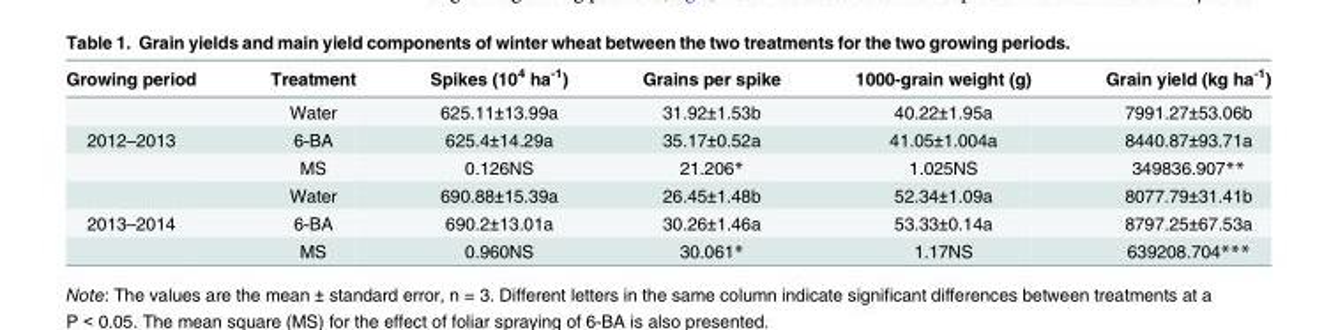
<table><thead><tr><td>Growing period</td><td>Treatment</td><td>Spikes (10<sup>4</sup> ha<sup>-1</sup>)</td><td>Grains per spike</td><td>1000-grain weight (g)</td><td>Grain yield (kg ha<sup>-1</sup>)</td></tr></thead><tbody><tr><td></td><td>Water</td><td>625.11±13.99a</td><td>31.92±1.53b</td><td>40.22±1.95a</td><td>7991.27±53.06b</td></tr><tr><td rowspan="3">2012–2013</td><td>6-BA</td><td>625.4±14.29a</td><td>35.17±0.52a</td><td>41.05±1.004a</td><td>8440.87±93.71a</td></tr><tr><td>MS</td><td>0.126NS</td><td>21.206*</td><td>1.025NS</td><td>349836.907**</td></tr><tr><td>Water</td><td>690.88±15.39a</td><td>26.45±1.48b</td><td>52.34±1.09a</td><td>8077.79±31.41b</td></tr><tr><td rowspan="2">2013–2014</td><td>6-BA</td><td>690.2±13.01a</td><td>30.26±1.46a</td><td>53.33±0.14a</td><td>8797.25±67.53a</td></tr><tr><td>MS</td><td>0.960NS</td><td>30.061*</td><td>1.17NS</td><td>639208.704***</td></tr></tbody></table>